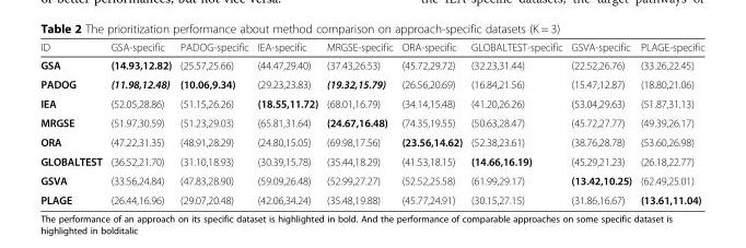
<table><thead><tr><td>ID</td><td>GSA-specific</td><td>PADOG-specific</td><td>IEA-specific</td><td>MRGSE-specific</td><td>ORA-specific</td><td>GLOBALTEST-specific</td><td>GSVA-specific</td><td>PLAGE-specific</td></tr></thead><tbody><tr><td>GSA</td><td>(14.93,12.82)</td><td>(25.57,25.66)</td><td>(44.47,29.40)</td><td>(37.43,26.53)</td><td>(45.72,29.72)</td><td>(32.23,31.44)</td><td>(22.52,26.76)</td><td>(33.26,22.45)</td></tr><tr><td>PADOG</td><td>(11.98,12.48)</td><td>(10.06,9.34)</td><td>(29.23,23.83)</td><td>(19.32,15.79)</td><td>(26.56,20.69)</td><td>(16.84,21.56)</td><td>(15.47,12.87)</td><td>(18.80,21.06)</td></tr><tr><td>IEA</td><td>(52.05,28.86)</td><td>(51.15,26.26)</td><td>(18.55,11.72)</td><td>(68.01,16.79)</td><td>(34.14,15.48)</td><td>(41.20,26.26)</td><td>(53.04,29.63)</td><td>(51.87,31.13)</td></tr><tr><td>MRGSE</td><td>(51.97,30.59)</td><td>(51.23,29.03)</td><td>(65.81,31.64)</td><td>(24.67,16.48)</td><td>(74.35,19.55)</td><td>(50.63,28.47)</td><td>(45.72,27.77)</td><td>(49.39,26.17)</td></tr><tr><td>ORA</td><td>(47.22,31.35)</td><td>(48.91,28.29)</td><td>(24.80,15.05)</td><td>(69.98,17.56)</td><td>(23.56,14.62)</td><td>(52.38,23.61)</td><td>(38.76,28.78)</td><td>(53.60,26.98)</td></tr><tr><td>GLOBALTEST</td><td>(36.52,21.70)</td><td>(31.10,18.93)</td><td>(30.39,15.78)</td><td>(35.44,18.29)</td><td>(41.53,18.15)</td><td>(14.66,16.19)</td><td>(45.29,21.23)</td><td>(26.18,22.77)</td></tr><tr><td>GSVA</td><td>(33.56,24.84)</td><td>(47.83,28.90)</td><td>(59.09,26.48)</td><td>(52.99,27.27)</td><td>(52.52,25.58)</td><td>(61.99,29.17)</td><td>(13.42,10.25)</td><td>(62.49,25.01)</td></tr><tr><td>PLAGE</td><td>(26.44,16.96)</td><td>(29.07,20.48)</td><td>(42.06,34.24)</td><td>(35.48,19.88)</td><td>(45.77,24.91)</td><td>(30.15,27.15)</td><td>(31.86,16.67)</td><td>(13.61,11.04)</td></tr></tbody></table>